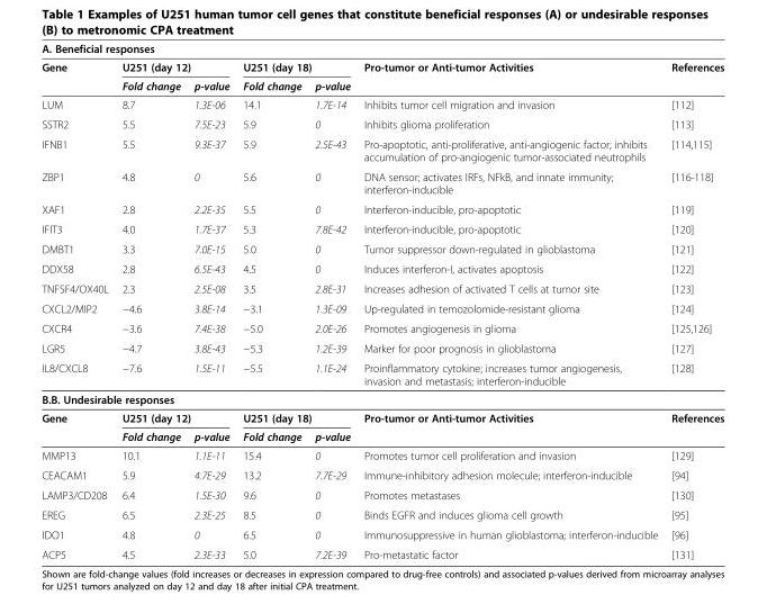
<table><thead><tr><td colspan="7">A. Beneficial responses</td></tr><tr><td rowspan="2">Gene</td><td colspan="2">U251 (day 12)</td><td colspan="2">U251 (day 18)</td><td rowspan="2">Pro-tumor or Anti-tumor Activities</td><td rowspan="2">References</td></tr><tr><td>Fold change</td><td>p-value</td><td>Fold change</td><td>p-value</td></tr></thead><tbody><tr><td>LUM</td><td>8.7</td><td>1.3E-06</td><td>14.1</td><td>1.7E-14</td><td>Inhibits tumor cell migration and invasion</td><td>[112]</td></tr><tr><td>SSTR2</td><td>5.5</td><td>7.5E-23</td><td>5.9</td><td>0</td><td>Inhibits glioma proliferation</td><td>[113]</td></tr><tr><td>IFNB1</td><td>5.5</td><td>9.3E-37</td><td>5.9</td><td>2.5E-43</td><td>Pro-apoptotic, anti-proliferative, anti-angiogenic factor; inhibits accumulation of pro-angiogenic tumor-associated neutrophils</td><td>[114,115]</td></tr><tr><td>ZBP1</td><td>4.8</td><td>0</td><td>5.6</td><td>0</td><td>DNA sensor; activates IRFs, NFkB, and innate immunity; interferon-inducible</td><td>[116-118]</td></tr><tr><td>XAF1</td><td>2.8</td><td>2.2E-35</td><td>5.5</td><td>0</td><td>Interferon-inducible, pro-apoptotic</td><td>[119]</td></tr><tr><td>IFIT3</td><td>4.0</td><td>1.7E-37</td><td>5.3</td><td>7.8E-42</td><td>Interferon-inducible, pro-apoptotic</td><td>[120]</td></tr><tr><td>DMBT1</td><td>3.3</td><td>7.0E-15</td><td>5.0</td><td>0</td><td>Tumor suppressor down-regulated in glioblastoma</td><td>[121]</td></tr><tr><td>DDX58</td><td>2.8</td><td>6.5E-43</td><td>4.5</td><td>0</td><td>Induces interferon-I, activates apoptosis</td><td>[122]</td></tr><tr><td>TNFSF4/OX40L</td><td>2.3</td><td>2.5E-08</td><td>3.5</td><td>2.8E-31</td><td>Increases adhesion of activated T cells at tumor site</td><td>[123]</td></tr><tr><td>CXCL2/MIP2</td><td>−4.6</td><td>3.8E-14</td><td>−3.1</td><td>1.3E-09</td><td>Up-regulated in temozolomide-resistant glioma</td><td>[124]</td></tr><tr><td>CXCR4</td><td>−3.6</td><td>7.4E-38</td><td>−5.0</td><td>2.0E-26</td><td>Promotes angiogenesis in glioma</td><td>[125,126]</td></tr><tr><td>LGR5</td><td>−4.7</td><td>3.8E-43</td><td>−5.3</td><td>1.2E-39</td><td>Marker for poor prognosis in glioblastoma</td><td>[127]</td></tr><tr><td>IL8/CXCL8</td><td>−7.6</td><td>1.5E-11</td><td>−5.5</td><td>1.1E-24</td><td>Proinflammatory cytokine; increases tumor angiogenesis, invasion and metastasis; interferon-inducible</td><td>[128]</td></tr><tr><td colspan="7">B.B. Undesirable responses</td></tr><tr><td rowspan="2">Gene</td><td colspan="2">U251 (day 12)</td><td colspan="2">U251 (day 18)</td><td rowspan="2">Pro-tumor or Anti-tumor Activities</td><td rowspan="2">References</td></tr><tr><td>Fold change</td><td>p-value</td><td>Fold change</td><td>p-value</td></tr><tr><td>MMP13</td><td>10.1</td><td>1.1E-11</td><td>15.4</td><td>0</td><td>Promotes tumor cell proliferation and invasion</td><td>[129]</td></tr><tr><td>CEACAM1</td><td>5.9</td><td>4.7E-29</td><td>13.2</td><td>7.7E-29</td><td>Immune-inhibitory adhesion molecule; interferon-inducible</td><td>[94]</td></tr><tr><td>LAMP3/CD208</td><td>6.4</td><td>1.5E-30</td><td>9.6</td><td>0</td><td>Promotes metastases</td><td>[130]</td></tr><tr><td>EREG</td><td>6.5</td><td>2.3E-25</td><td>8.5</td><td>0</td><td>Binds EGFR and induces glioma cell growth</td><td>[95]</td></tr><tr><td>IDO1</td><td>4.8</td><td>0</td><td>6.5</td><td>0</td><td>Immunosuppressive in human glioblastoma; interferon-inducible</td><td>[96]</td></tr><tr><td>ACP5</td><td>4.5</td><td>2.3E-33</td><td>5.0</td><td>7.2E-39</td><td>Pro-metastatic factor</td><td>[131]</td></tr></tbody></table>